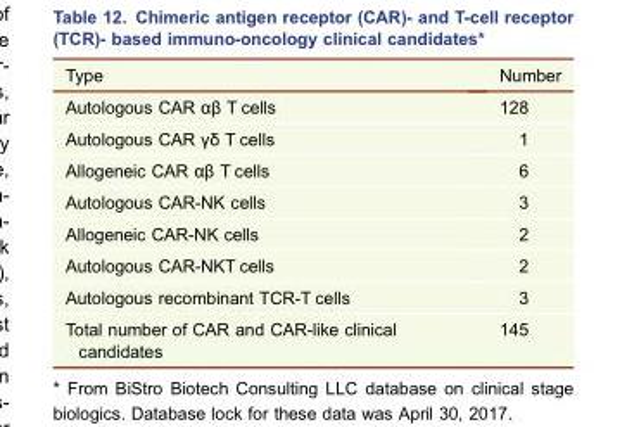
<table><thead><tr><td>Type</td><td>Number</td></tr></thead><tbody><tr><td>Autologous CAR αβ T cells</td><td>128</td></tr><tr><td>Autologous CAR γδ T cells</td><td>1</td></tr><tr><td>Allogeneic CAR αβ T cells</td><td>6</td></tr><tr><td>Autologous CAR-NK cells</td><td>3</td></tr><tr><td>Allogeneic CAR-NK cells</td><td>2</td></tr><tr><td>Autologous CAR-NKT cells</td><td>2</td></tr><tr><td>Autologous recombinant TCR-T cells</td><td>3</td></tr><tr><td>Total number of CAR and CAR-like clinical candidates</td><td>145</td></tr></tbody></table>